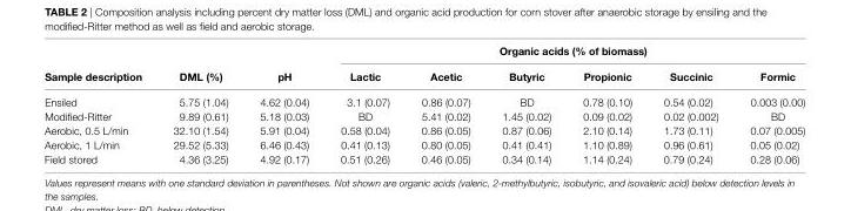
<table><thead><tr><td rowspan="2">sample description</td><td rowspan="2">DMl (%)</td><td rowspan="2">ph</td><td colspan="6">Organic acids (% of biomass)</td></tr><tr><td>lactic</td><td>acetic</td><td>Butyric</td><td>Propionic</td><td>succinic</td><td>Formic</td></tr></thead><tbody><tr><td>Ensiled</td><td>5.75 (1.04)</td><td>4.62 (0.04)</td><td>3.1 (0.07)</td><td>0.86 (0.07)</td><td>BD</td><td>0.78 (0.10)</td><td>0.54 (0.02)</td><td>0.003 (0.00)</td></tr><tr><td>Modified-Ritter</td><td>9.89 (0.61)</td><td>5.18 (0.03)</td><td>BD</td><td>5.41 (0.02)</td><td>1.45 (0.02)</td><td>0.09 (0.02)</td><td>0.02 (0.002)</td><td>BD</td></tr><tr><td>Aerobic, 0.5 L/min</td><td>32.10 (1.54)</td><td>5.91 (0.04)</td><td>0.58 (0.04)</td><td>0.86 (0.05)</td><td>0.87 (0.06)</td><td>2.10 (0.14)</td><td>1.73 (0.11)</td><td>0.07 (0.005)</td></tr><tr><td>Aerobic, 1 L/min</td><td>29.52 (5.33)</td><td>6.46 (0.43)</td><td>0.41 (0.13)</td><td>0.80 (0.05)</td><td>0.41 (0.41)</td><td>1.10 (0.89)</td><td>0.96 (0.61)</td><td>0.05 (0.02)</td></tr><tr><td>Field stored</td><td>4.36 (3.25)</td><td>4.92 (0.17)</td><td>0.51 (0.26)</td><td>0.46 (0.05)</td><td>0.34 (0.14)</td><td>1.14 (0.24)</td><td>0.79 (0.24)</td><td>0.28 (0.06)</td></tr></tbody></table>